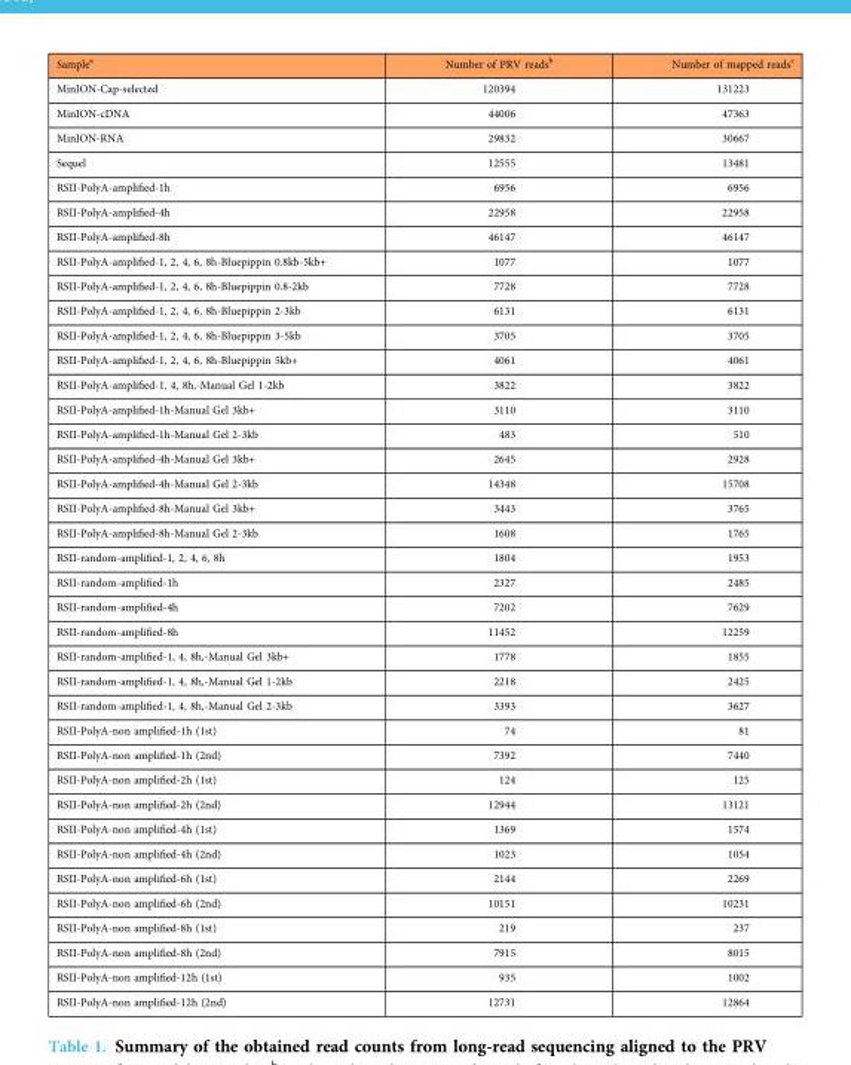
<table><thead><tr><td>Sample<sup>a</sup></td><td>Number of PRV reads<sup>b</sup></td><td>Number of mapped reads<sup>c</sup></td></tr></thead><tbody><tr><td>MinION-Cap-selected</td><td>120394</td><td>131223</td></tr><tr><td>MinION-cDNA</td><td>44006</td><td>47363</td></tr><tr><td>MinION-RNA</td><td>29832</td><td>30667</td></tr><tr><td>Sequel</td><td>12555</td><td>13481</td></tr><tr><td>RSII-PolyA-amplified-1h</td><td>6956</td><td>6956</td></tr><tr><td>RSII-PolyA-amplified-4h</td><td>22958</td><td>22958</td></tr><tr><td>RSII-PolyA-amplified-8h</td><td>46147</td><td>46147</td></tr><tr><td>RSII-PolyA-amplified-1, 2, 4, 6, 8h-Bluepippin 0.8kb-5kb+</td><td>1077</td><td>1077</td></tr><tr><td>RSII-PolyA-amplified-1, 2, 4, 6, 8h-Bluepippin 0.8-2kb</td><td>7728</td><td>7728</td></tr><tr><td>RSII-PolyA-amplified-1, 2, 4, 6, 8h-Bluepippin 2-3kb</td><td>6131</td><td>6131</td></tr><tr><td>RSII-PolyA-amplified-1, 2, 4, 6, 8h-Bluepippin 3-5kb</td><td>3705</td><td>3705</td></tr><tr><td>RSII-PolyA-amplified-1, 2, 4, 6, 8h-Bluepippin 5kb+</td><td>4061</td><td>4061</td></tr><tr><td>RSII-PolyA-amplified-1, 4, 8h,-Manual Gel 1-2kb</td><td>3822</td><td>3822</td></tr><tr><td>RSII-PolyA-amplified-1h-Manual Gel 3kb+</td><td>3110</td><td>3110</td></tr><tr><td>RSII-PolyA-amplified-1h-Manual Gel 2-3kb</td><td>483</td><td>510</td></tr><tr><td>RSII-PolyA-amplified-4h-Manual Gel 3kb+</td><td>2645</td><td>2928</td></tr><tr><td>RSII-PolyA-amplified-4h-Manual Gel 2-3kb</td><td>14348</td><td>15708</td></tr><tr><td>RSII-PolyA-amplified-8h-Manual Gel 3kb+</td><td>3443</td><td>3765</td></tr><tr><td>RSII-PolyA-amplified-8h-Manual Gel 2-3kb</td><td>1608</td><td>1765</td></tr><tr><td>RSII-random-amplified-1, 2, 4, 6, 8h</td><td>1804</td><td>1953</td></tr><tr><td>RSII-random-amplified-1h</td><td>2327</td><td>2485</td></tr><tr><td>RSII-random-amplified-4h</td><td>7202</td><td>7629</td></tr><tr><td>RSII-random-amplified-8h</td><td>11452</td><td>12259</td></tr><tr><td>RSII-random-amplified-1, 4, 8h,-Manual Gel 3kb+</td><td>1778</td><td>1855</td></tr><tr><td>RSII-random-amplified-1, 4, 8h,-Manual Gel 1-2kb</td><td>2218</td><td>2425</td></tr><tr><td>RSII-random-amplified-1, 4, 8h,-Manual Gel 2-3kb</td><td>3393</td><td>3627</td></tr><tr><td>RSII-PolyA-non amplified-1h (1st)</td><td>74</td><td>81</td></tr><tr><td>RSII-PolyA-non amplified-1h (2nd)</td><td>7392</td><td>7440</td></tr><tr><td>RSII-PolyA-non amplified-2h (1st)</td><td>124</td><td>125</td></tr><tr><td>RSII-PolyA-non amplified-2h (2nd)</td><td>12944</td><td>13121</td></tr><tr><td>RSII-PolyA-non amplified-4h (1st)</td><td>1369</td><td>1574</td></tr><tr><td>RSII-PolyA-non amplified-4h (2nd)</td><td>1023</td><td>1054</td></tr><tr><td>RSII-PolyA-non amplified-6h (1st)</td><td>2144</td><td>2269</td></tr><tr><td>RSII-PolyA-non amplified-6h (2nd)</td><td>10151</td><td>10231</td></tr><tr><td>RSII-PolyA-non amplified-8h (1st)</td><td>219</td><td>237</td></tr><tr><td>RSII-PolyA-non amplified-8h (2nd)</td><td>7915</td><td>8015</td></tr><tr><td>RSII-PolyA-non amplified-12h (1st)</td><td>935</td><td>1002</td></tr><tr><td>RSII-PolyA-non amplified-12h (2nd)</td><td>12731</td><td>12864</td></tr></tbody></table>